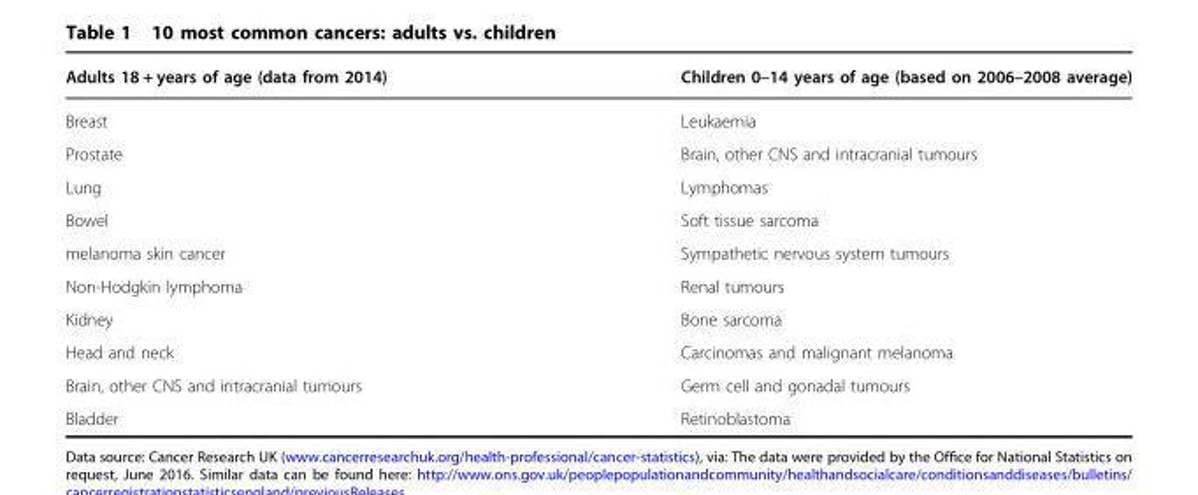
<table><thead><tr><td>Adults 18 + years of age (data from 2014)</td><td>Children 0–14 years of age (based on 2006–2008 average)</td></tr></thead><tbody><tr><td>Breast</td><td>Leukaemia</td></tr><tr><td>Prostate</td><td>Brain, other CNS and intracranial tumours</td></tr><tr><td>Lung</td><td>Lymphomas</td></tr><tr><td>Bowel</td><td>Soft tissue sarcoma</td></tr><tr><td>melanoma skin cancer</td><td>Sympathetic nervous system tumours</td></tr><tr><td>Non-Hodgkin lymphoma</td><td>Renal tumours</td></tr><tr><td>Kidney</td><td>Bone sarcoma</td></tr><tr><td>Head and neck</td><td>Carcinomas and malignant melanoma</td></tr><tr><td>Brain, other CNS and intracranial tumours</td><td>Germ cell and gonadal tumours</td></tr><tr><td>Bladder</td><td>Retinoblastoma</td></tr></tbody></table>